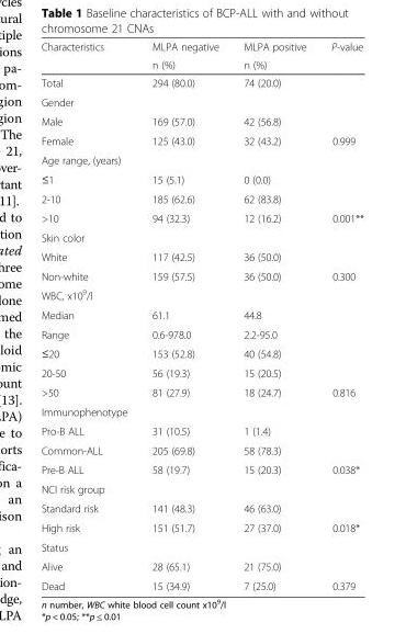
<table><thead><tr><td rowspan="2">Characteristics</td><td rowspan="2">MLPA negative n (%)</td><td rowspan="2">MLPA positive n (%)</td><td rowspan="2">P-value</td></tr><tr></tr></thead><tbody><tr><td>Total</td><td>294 (80.0)</td><td>74 (20.0)</td><td></td></tr><tr><td colspan="4">Gender</td></tr><tr><td>Male</td><td>169 (57.0)</td><td>42 (56.8)</td><td></td></tr><tr><td>Female</td><td>125 (43.0)</td><td>32 (43.2)</td><td>0.999</td></tr><tr><td colspan="4">Age range, (years)</td></tr><tr><td>≤1</td><td>15 (5.1)</td><td>0 (0.0)</td><td></td></tr><tr><td>2-10</td><td>185 (62.6)</td><td>62 (83.8)</td><td></td></tr><tr><td>&gt;10</td><td>94 (32.3)</td><td>12 (16.2)</td><td>0.001**</td></tr><tr><td colspan="4">Skin color</td></tr><tr><td>White</td><td>117 (42.5)</td><td>36 (50.0)</td><td></td></tr><tr><td>Non-white</td><td>159 (57.5)</td><td>36 (50.0)</td><td>0.300</td></tr><tr><td colspan="4">WBC, x10<sup>9</sup>/l</td></tr><tr><td>Median</td><td>61.1</td><td>44.8</td><td></td></tr><tr><td>Range</td><td>0.6-978.0</td><td>2.2-95.0</td><td></td></tr><tr><td>≤20</td><td>153 (52.8)</td><td>40 (54.8)</td><td></td></tr><tr><td>20-50</td><td>56 (19.3)</td><td>15 (20.5)</td><td></td></tr><tr><td>&gt;50</td><td>81 (27.9)</td><td>18 (24.7)</td><td>0.816</td></tr><tr><td colspan="4">Immunophenotype</td></tr><tr><td>Pro-B ALL</td><td>31 (10.5)</td><td>1 (1.4)</td><td></td></tr><tr><td>Common-ALL</td><td>205 (69.8)</td><td>58 (78.3)</td><td></td></tr><tr><td>Pre-B ALL</td><td>58 (19.7)</td><td>15 (20.3)</td><td>0.038*</td></tr><tr><td colspan="4">NCI risk group</td></tr><tr><td>Standard risk</td><td>141 (48.3)</td><td>46 (63.0)</td><td></td></tr><tr><td>High risk</td><td>151 (51.7)</td><td>27 (37.0)</td><td>0.018*</td></tr><tr><td colspan="4">Status</td></tr><tr><td>Alive</td><td>28 (65.1)</td><td>21 (75.0)</td><td></td></tr><tr><td>Dead</td><td>15 (34.9)</td><td>7 (25.0)</td><td>0.379</td></tr></tbody></table>